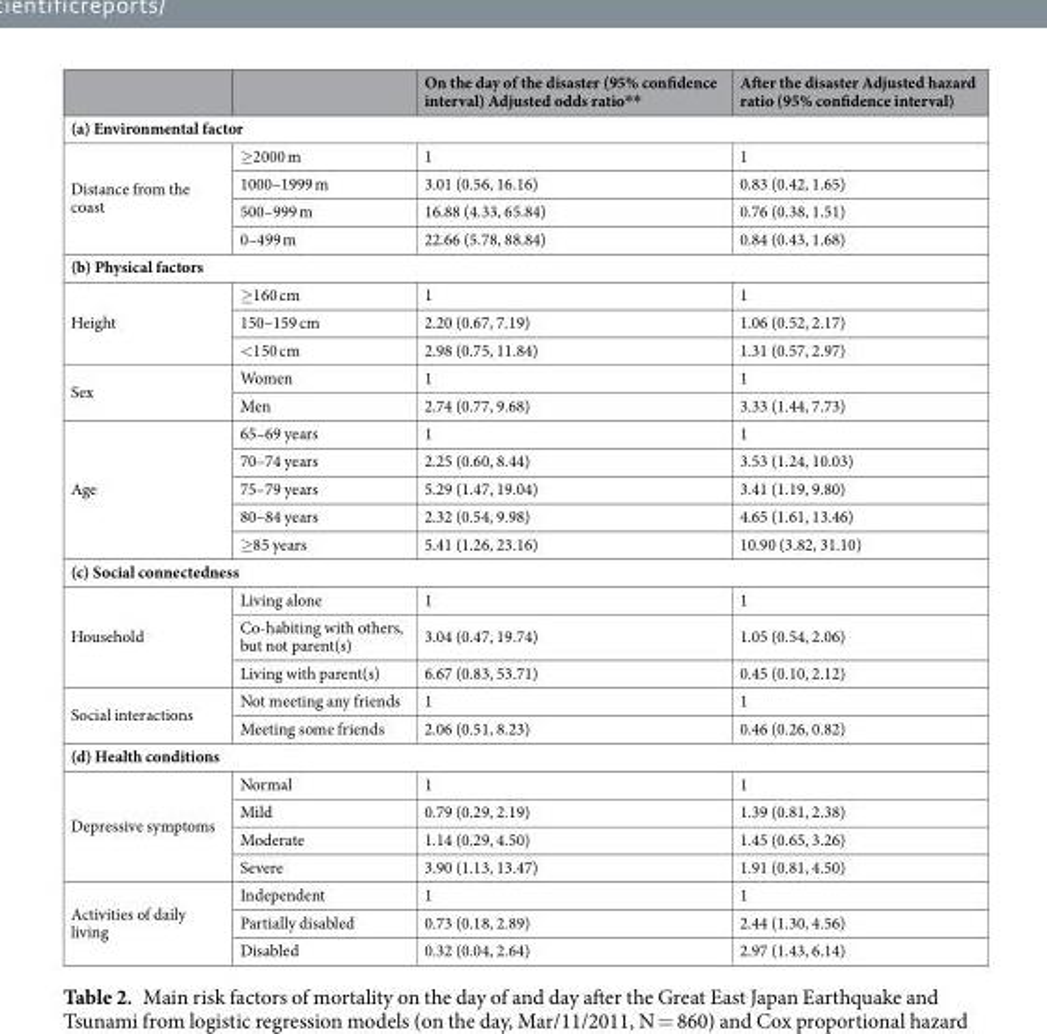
<table><thead><tr><td></td><td></td><td>On the day of the disaster (95% confidence interval) Adjusted odds ratio**</td><td>After the disaster Adjusted hazard ratio (95% confidence interval)</td></tr></thead><tbody><tr><td colspan="4">(a) Environmental factor</td></tr><tr><td rowspan="4">Distance from the coast</td><td>≥2000 m</td><td>1</td><td>1</td></tr><tr><td>1000–1999 m</td><td>3.01 (0.56, 16.16)</td><td>0.83 (0.42, 1.65)</td></tr><tr><td>500–999 m</td><td>16.88 (4.33, 65.84)</td><td>0.76 (0.38, 1.51)</td></tr><tr><td>0–499 m</td><td>22.66 (5.78, 88.84)</td><td>0.84 (0.43, 1.68)</td></tr><tr><td colspan="4">(b) Physical factors</td></tr><tr><td rowspan="3">Height</td><td>≥160 cm</td><td>1</td><td>1</td></tr><tr><td>150–159 cm</td><td>2.20 (0.67, 7.19)</td><td>1.06 (0.52, 2.17)</td></tr><tr><td>&lt;150 cm</td><td>2.98 (0.75, 11.84)</td><td>1.31 (0.57, 2.97)</td></tr><tr><td rowspan="2">Sex</td><td>Women</td><td>1</td><td>1</td></tr><tr><td>Men</td><td>2.74 (0.77, 9.68)</td><td>3.33 (1.44, 7.73)</td></tr><tr><td rowspan="5">Age</td><td>65–69 years</td><td>1</td><td>1</td></tr><tr><td>70–74 years</td><td>2.25 (0.60, 8.44)</td><td>3.53 (1.24, 10.03)</td></tr><tr><td>75–79 years</td><td>5.29 (1.47, 19.04)</td><td>3.41 (1.19, 9.80)</td></tr><tr><td>80–84 years</td><td>2.32 (0.54, 9.98)</td><td>4.65 (1.61, 13.46)</td></tr><tr><td>≥85 years</td><td>5.41 (1.26, 23.16)</td><td>10.90 (3.82, 31.10)</td></tr><tr><td colspan="4">(c) Social connectedness</td></tr><tr><td rowspan="3">Household</td><td>Living alone</td><td>1</td><td>1</td></tr><tr><td>Co-habiting with others, but not parent(s)</td><td>3.04 (0.47, 19.74)</td><td>1.05 (0.54, 2.06)</td></tr><tr><td>Living with parent(s)</td><td>6.67 (0.83, 53.71)</td><td>0.45 (0.10, 2.12)</td></tr><tr><td rowspan="2">Social interactions</td><td>Not meeting any friends</td><td>1</td><td>1</td></tr><tr><td>Meeting some friends</td><td>2.06 (0.51, 8.23)</td><td>0.46 (0.26, 0.82)</td></tr><tr><td colspan="4">(d) Health conditions</td></tr><tr><td rowspan="4">Depressive symptoms</td><td>Normal</td><td>1</td><td>1</td></tr><tr><td>Mild</td><td>0.79 (0.29, 2.19)</td><td>1.39 (0.81, 2.38)</td></tr><tr><td>Moderate</td><td>1.14 (0.29, 4.50)</td><td>1.45 (0.65, 3.26)</td></tr><tr><td>Severe</td><td>3.90 (1.13, 13.47)</td><td>1.91 (0.81, 4.50)</td></tr><tr><td rowspan="3">Activities of daily living</td><td>Independent</td><td>1</td><td>1</td></tr><tr><td>Partially disabled</td><td>0.73 (0.18, 2.89)</td><td>2.44 (1.30, 4.56)</td></tr><tr><td>Disabled</td><td>0.32 (0.04, 2.64)</td><td>2.97 (1.43, 6.14)</td></tr></tbody></table>